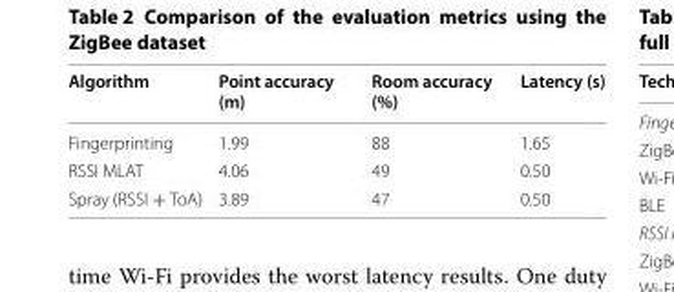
<table><thead><tr><td>Algorithm</td><td>Point accuracy (m)</td><td>Room accuracy (%)</td><td>Latency (s)</td></tr></thead><tbody><tr><td>Fingerprinting</td><td>1.99</td><td>88</td><td>1.65</td></tr><tr><td>RSSI MLAT</td><td>4.06</td><td>49</td><td>0.50</td></tr><tr><td>Spray (RSSI + ToA)</td><td>3.89</td><td>47</td><td>0.50</td></tr></tbody></table>